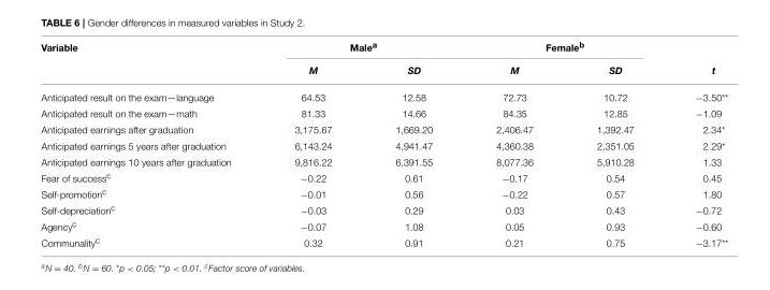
<table><thead><tr><td rowspan="2">Variable</td><td colspan="2">Male<sup>a</sup></td><td colspan="2">Female<sup>b</sup></td><td rowspan="2">t</td></tr><tr><td>M</td><td>SD</td><td>M</td><td>SD</td></tr></thead><tbody><tr><td>Anticipated result on the exam—language</td><td>64.53</td><td>12.58</td><td>72.73</td><td>10.72</td><td>−3.50**</td></tr><tr><td>Anticipated result on the exam—math</td><td>81.33</td><td>14.66</td><td>84.35</td><td>12.85</td><td>−1.09</td></tr><tr><td>Anticipated earnings after graduation</td><td>3,175.67</td><td>1,669.20</td><td>2,406.47</td><td>1,392.47</td><td>2.34*</td></tr><tr><td>Anticipated earnings 5 years after graduation</td><td>6,143.24</td><td>4,941.47</td><td>4,360.38</td><td>2,351.05</td><td>2.29*</td></tr><tr><td>Anticipated earnings 10 years after graduation</td><td>9,816.22</td><td>6,391.55</td><td>8,077.36</td><td>5,910.28</td><td>1.33</td></tr><tr><td>Fear of success<sup>c</sup></td><td>−0.22</td><td>0.61</td><td>−0.17</td><td>0.54</td><td>0.45</td></tr><tr><td>Self-promotion<sup>c</sup></td><td>−0.01</td><td>0.56</td><td>−0.22</td><td>0.57</td><td>1.80</td></tr><tr><td>Self-depreciation<sup>c</sup></td><td>−0.03</td><td>0.29</td><td>0.03</td><td>0.43</td><td>−0.72</td></tr><tr><td>Agency<sup>c</sup></td><td>−0.07</td><td>1.08</td><td>0.05</td><td>0.93</td><td>−0.60</td></tr><tr><td>Communality<sup>c</sup></td><td>0.32</td><td>0.91</td><td>0.21</td><td>0.75</td><td>−3.17**</td></tr></tbody></table>